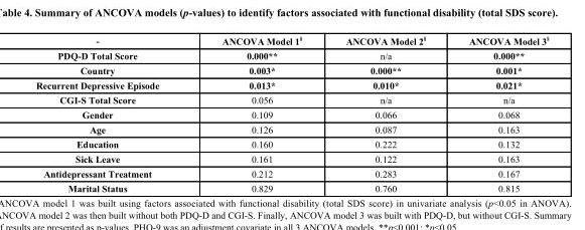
<table><thead><tr><td>-</td><td>ANCOVA Model 1 <sup>§</sup></td><td>ANCOVA Model 2 <sup>§</sup></td><td>ANCOVA Model 3 <sup>§</sup></td></tr></thead><tbody><tr><td>PDQ-D Total Score</td><td>0.000**</td><td>n/a</td><td>0.000**</td></tr><tr><td>Country</td><td>0.003*</td><td>0.000**</td><td>0.001*</td></tr><tr><td>Recurrent Depressive Episode</td><td>0.013*</td><td>0.010*</td><td>0.021*</td></tr><tr><td>CGI-S Total Score</td><td>0.056</td><td>n/a</td><td>n/a</td></tr><tr><td>Gender</td><td>0.109</td><td>0.066</td><td>0.068</td></tr><tr><td>Age</td><td>0.126</td><td>0.087</td><td>0.163</td></tr><tr><td>Education</td><td>0.160</td><td>0.222</td><td>0.132</td></tr><tr><td>Sick Leave</td><td>0.161</td><td>0.122</td><td>0.163</td></tr><tr><td>Antidepressant Treatment</td><td>0.212</td><td>0.283</td><td>0.167</td></tr><tr><td>Marital Status</td><td>0.829</td><td>0.760</td><td>0.815</td></tr></tbody></table>